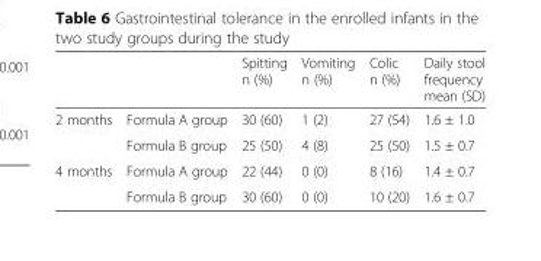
<table><thead><tr><td></td><td></td><td>Spitting n (%)</td><td>Vomiting n (%)</td><td>Colic n (%)</td><td>Daily stool frequency mean (SD)</td></tr></thead><tbody><tr><td rowspan="2">2 months</td><td>Formula A group</td><td>30 (60)</td><td>1 (2)</td><td>27 (54)</td><td>1.6 ± 1.0</td></tr><tr><td>Formula B group</td><td>25 (50)</td><td>4 (8)</td><td>25 (50)</td><td>1.5 ± 0.7</td></tr><tr><td rowspan="2">4 months</td><td>Formula A group</td><td>22 (44)</td><td>0 (0)</td><td>8 (16)</td><td>1.4 ± 0.7</td></tr><tr><td>Formula B group</td><td>30 (60)</td><td>0 (0)</td><td>10 (20)</td><td>1.6 ± 0.7</td></tr></tbody></table>